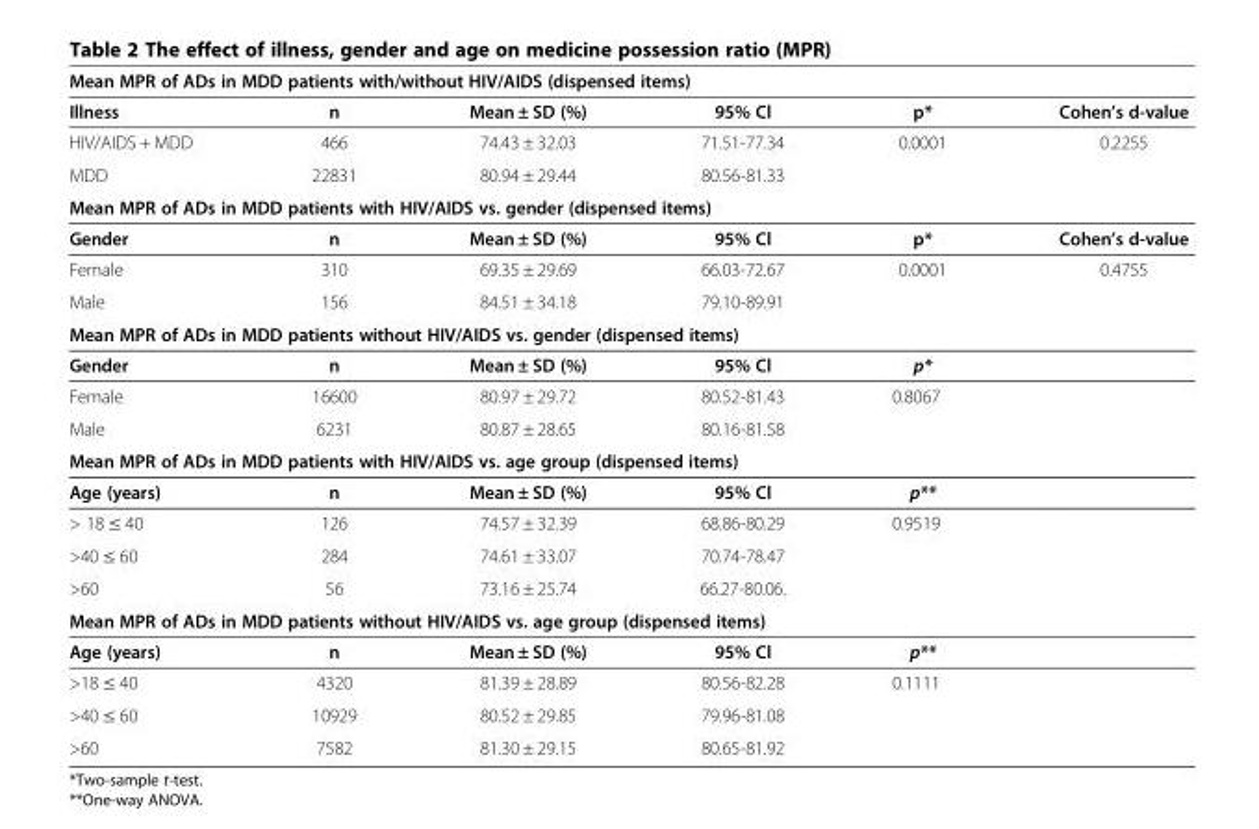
<table><thead><tr><td colspan="6">Mean MPR of ADs in MDD patients with/without HIV/AIDS (dispensed items)</td></tr><tr><td>Illness</td><td>n</td><td>Mean ± SD (%)</td><td>95% Cl</td><td>p*</td><td>Cohen’s d-value</td></tr></thead><tbody><tr><td>HIV/AIDS + MDD</td><td>466</td><td>74.43 ± 32.03</td><td>71.51-77.34</td><td>0.0001</td><td>0.2255</td></tr><tr><td>MDD</td><td>22831</td><td>80.94 ± 29.44</td><td>80.56-81.33</td><td></td><td></td></tr><tr><td colspan="6">Mean MPR of ADs in MDD patients with HIV/AIDS vs. gender (dispensed items)</td></tr><tr><td>Gender</td><td>n</td><td>Mean ± SD (%)</td><td>95% Cl</td><td>p*</td><td>Cohen’s d-value</td></tr><tr><td>Female</td><td>310</td><td>69.35 ± 29.69</td><td>66.03-72.67</td><td>0.0001</td><td>0.4755</td></tr><tr><td>Male</td><td>156</td><td>84.51 ± 34.18</td><td>79.10-89.91</td><td></td><td></td></tr><tr><td colspan="6">Mean MPR of ADs in MDD patients without HIV/AIDS vs. gender (dispensed items)</td></tr><tr><td>Gender</td><td>n</td><td>Mean ± SD (%)</td><td>95% Cl</td><td>p*</td><td></td></tr><tr><td>Female</td><td>16600</td><td>80.97 ± 29.72</td><td>80.52-81.43</td><td colspan="2">0.8067</td></tr><tr><td>Male</td><td>6231</td><td>80.87 ± 28.65</td><td>80.16-81.58</td><td colspan="2"></td></tr><tr><td colspan="6">Mean MPR of ADs in MDD patients with HIV/AIDS vs. age group (dispensed items)</td></tr><tr><td>Age (years)</td><td>n</td><td>Mean ± SD (%)</td><td>95% Cl</td><td>p**</td><td></td></tr><tr><td>&gt; 18 ≤ 40</td><td>126</td><td>74.57 ± 32.39</td><td>68.86-80.29</td><td colspan="2">0.9519</td></tr><tr><td>&gt;40 ≤ 60</td><td>284</td><td>74.61 ± 33.07</td><td>70.74-78.47</td><td colspan="2"></td></tr><tr><td>&gt;60</td><td>56</td><td>73.16 ± 25.74</td><td>66.27-80.06.</td><td colspan="2"></td></tr><tr><td colspan="6">Mean MPR of ADs in MDD patients without HIV/AIDS vs. age group (dispensed items)</td></tr><tr><td>Age (years)</td><td>n</td><td>Mean ± SD (%)</td><td>95% Cl</td><td>p**</td><td></td></tr><tr><td>&gt;18 ≤ 40</td><td>4320</td><td>81.39 ± 28.89</td><td>80.56-82.28</td><td colspan="2">0.1111</td></tr><tr><td>&gt;40 ≤ 60</td><td>10929</td><td>80.52 ± 29.85</td><td>79.96-81.08</td><td colspan="2"></td></tr><tr><td>&gt;60</td><td>7582</td><td>81.30 ± 29.15</td><td>80.65-81.92</td><td colspan="2"></td></tr></tbody></table>